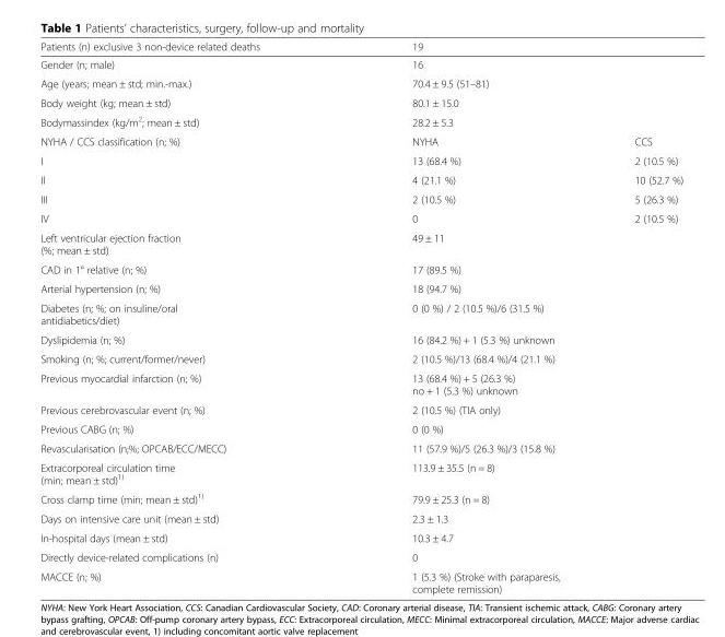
<table><thead><tr><td>Patients (n) exclusive 3 non-device related deaths</td><td colspan="2">19</td></tr></thead><tbody><tr><td>Gender (n; male)</td><td colspan="2">16</td></tr><tr><td>Age (years; mean ± std; min.-max.)</td><td colspan="2">70.4 ± 9.5 (51–81)</td></tr><tr><td>Body weight (kg; mean ± std)</td><td colspan="2">80.1 ± 15.0</td></tr><tr><td>Bodymassindex (kg/m<sup>2</sup>; mean ± std)</td><td colspan="2">28.2 ± 5.3</td></tr><tr><td>NYHA / CCS classification (n; %)</td><td>NYHA</td><td>CCS</td></tr><tr><td>I</td><td>13 (68.4 %)</td><td>2 (10.5 %)</td></tr><tr><td>II</td><td>4 (21.1 %)</td><td>10 (52.7 %)</td></tr><tr><td>III</td><td>2 (10.5 %)</td><td>5 (26.3 %)</td></tr><tr><td>IV</td><td>0</td><td>2 (10.5 %)</td></tr><tr><td>Left ventricular ejection fraction (%; mean ± std)</td><td colspan="2">49 ± 11</td></tr><tr><td>CAD in 1° relative (n; %)</td><td colspan="2">17 (89.5 %)</td></tr><tr><td>Arterial hypertension (n; %)</td><td colspan="2">18 (94.7 %)</td></tr><tr><td>Diabetes (n; %; on insuline/oral antidiabetics/diet)</td><td colspan="2">0 (0 %) / 2 (10.5 %)/6 (31.5 %)</td></tr><tr><td>Dyslipidemia (n; %)</td><td colspan="2">16 (84.2 %) + 1 (5.3 %) unknown</td></tr><tr><td>Smoking (n; %; current/former/never)</td><td colspan="2">2 (10.5 %)/13 (68.4 %)/4 (21.1 %)</td></tr><tr><td>Previous myocardial infarction (n; %)</td><td colspan="2">13 (68.4 %) + 5 (26.3 %) no + 1 (5.3 %) unknown</td></tr><tr><td>Previous cerebrovascular event (n; %)</td><td colspan="2">2 (10.5 %) (TIA only)</td></tr><tr><td>Previous CABG (n; %)</td><td colspan="2">0 (0 %)</td></tr><tr><td>Revascularisation (n;%; OPCAB/ECC/MECC)</td><td colspan="2">11 (57.9 %)/5 (26.3 %)/3 (15.8 %)</td></tr><tr><td>Extracorporeal circulation time (min; mean ± std)<sup>1)</sup></td><td colspan="2">113.9 ± 35.5 (n = 8)</td></tr><tr><td>Cross clamp time (min; mean ± std)<sup>1)</sup></td><td colspan="2">79.9 ± 25.3 (n = 8)</td></tr><tr><td>Days on intensive care unit (mean ± std)</td><td colspan="2">2.3 ± 1.3</td></tr><tr><td>In-hospital days (mean ± std)</td><td colspan="2">10.3 ± 4.7</td></tr><tr><td>Directly device-related complications (n)</td><td colspan="2">0</td></tr><tr><td>MACCE (n; %)</td><td colspan="2">1 (5.3 %) (Stroke with paraparesis, complete remission)</td></tr></tbody></table>